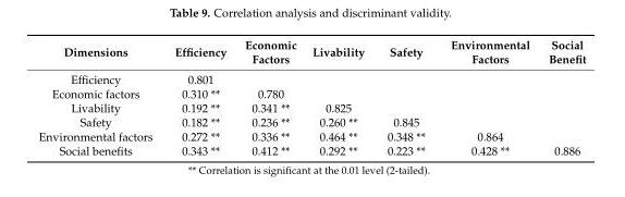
<table><thead><tr><td>Dimensions</td><td>Efficiency</td><td>Economic Factors</td><td>Livability</td><td>Safety</td><td>Environmental Factors</td><td>Social Benefit</td></tr></thead><tbody><tr><td>Efficiency</td><td>0.801</td><td></td><td></td><td></td><td></td><td></td></tr><tr><td>Economic factors</td><td>0.310 **</td><td>0.780</td><td></td><td></td><td></td><td></td></tr><tr><td>Livability</td><td>0.192 **</td><td>0.341 **</td><td>0.825</td><td></td><td></td><td></td></tr><tr><td>Safety</td><td>0.182 **</td><td>0.236 **</td><td>0.260 **</td><td>0.845</td><td></td><td></td></tr><tr><td>Environmental factors</td><td>0.272 **</td><td>0.336 **</td><td>0.464 **</td><td>0.348 **</td><td>0.864</td><td></td></tr><tr><td>Social benefits</td><td>0.343 **</td><td>0.412 **</td><td>0.292 **</td><td>0.223 **</td><td>0.428 **</td><td>0.886</td></tr></tbody></table>